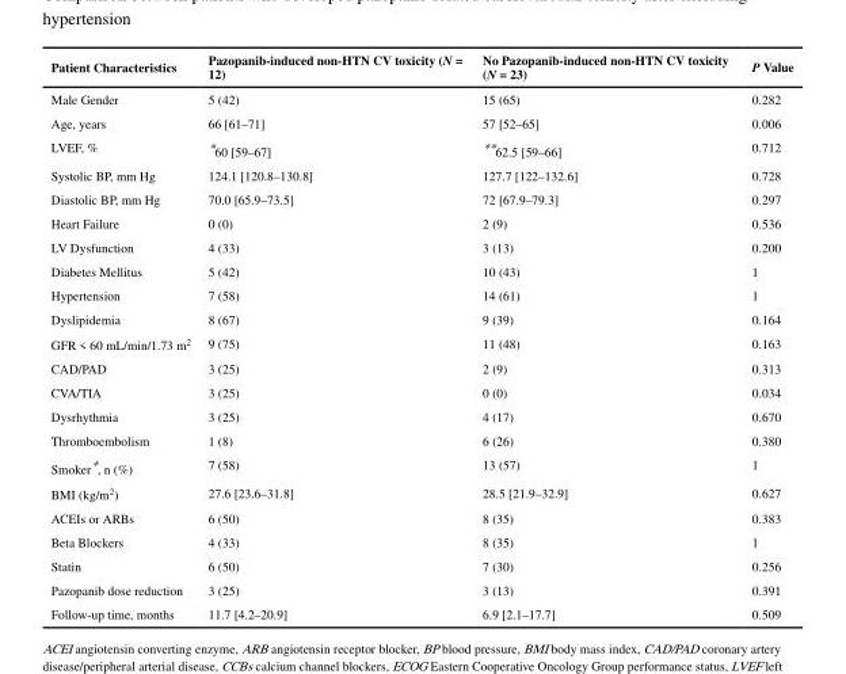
<table><thead><tr><td>Patient Characteristics</td><td>Pazopanib-induced non-HTN CV toxicity (N = 12)</td><td>No Pazopanib-induced non-HTN CV toxicity (N = 23)</td><td>P Value</td></tr></thead><tbody><tr><td>Male Gender</td><td>5 (42)</td><td>15 (65)</td><td>0.282</td></tr><tr><td>Age, years</td><td>66 [61–71]</td><td>57 [52–65]</td><td>0.006</td></tr><tr><td>LVEF, %</td><td>*60 [59–67]</td><td>**62.5 [59–66]</td><td>0.712</td></tr><tr><td>Systolic BP, mm Hg</td><td>124.1 [120.8–130.8]</td><td>127.7 [122–132.6]</td><td>0.728</td></tr><tr><td>Diastolic BP, mm Hg</td><td>70.0 [65.9–73.5]</td><td>72 [67.9–79.3]</td><td>0.297</td></tr><tr><td>Heart Failure</td><td>0 (0)</td><td>2 (9)</td><td>0.536</td></tr><tr><td>LV Dysfunction</td><td>4 (33)</td><td>3 (13)</td><td>0.200</td></tr><tr><td>Diabetes Mellitus</td><td>5 (42)</td><td>10 (43)</td><td>1</td></tr><tr><td>Hypertension</td><td>7 (58)</td><td>14 (61)</td><td>1</td></tr><tr><td>Dyslipidemia</td><td>8 (67)</td><td>9 (39)</td><td>0.164</td></tr><tr><td>GFR &lt; 60 mL/min/1.73 m<sup>2</sup></td><td>9 (75)</td><td>11 (48)</td><td>0.163</td></tr><tr><td>CAD/PAD</td><td>3 (25)</td><td>2 (9)</td><td>0.313</td></tr><tr><td>CVA/TIA</td><td>3 (25)</td><td>0 (0)</td><td>0.034</td></tr><tr><td>Dysrhythmia</td><td>3 (25)</td><td>4 (17)</td><td>0.670</td></tr><tr><td>Thromboembolism</td><td>1 (8)</td><td>6 (26)</td><td>0.380</td></tr><tr><td>Smoker*, n (%)</td><td>7 (58)</td><td>13 (57)</td><td>1</td></tr><tr><td>BMI (kg/m<sup>2</sup>)</td><td>27.6 [23.6–31.8]</td><td>28.5 [21.9–32.9]</td><td>0.627</td></tr><tr><td>ACEIs or ARBs</td><td>6 (50)</td><td>8 (35)</td><td>0.383</td></tr><tr><td>Beta Blockers</td><td>4 (33)</td><td>8 (35)</td><td>1</td></tr><tr><td>Statin</td><td>6 (50)</td><td>7 (30)</td><td>0.256</td></tr><tr><td>Pazopanib dose reduction</td><td>3 (25)</td><td>3 (13)</td><td>0.391</td></tr><tr><td>Follow-up time, months</td><td>11.7 [4.2–20.9]</td><td>6.9 [2.1–17.7]</td><td>0.509</td></tr></tbody></table>